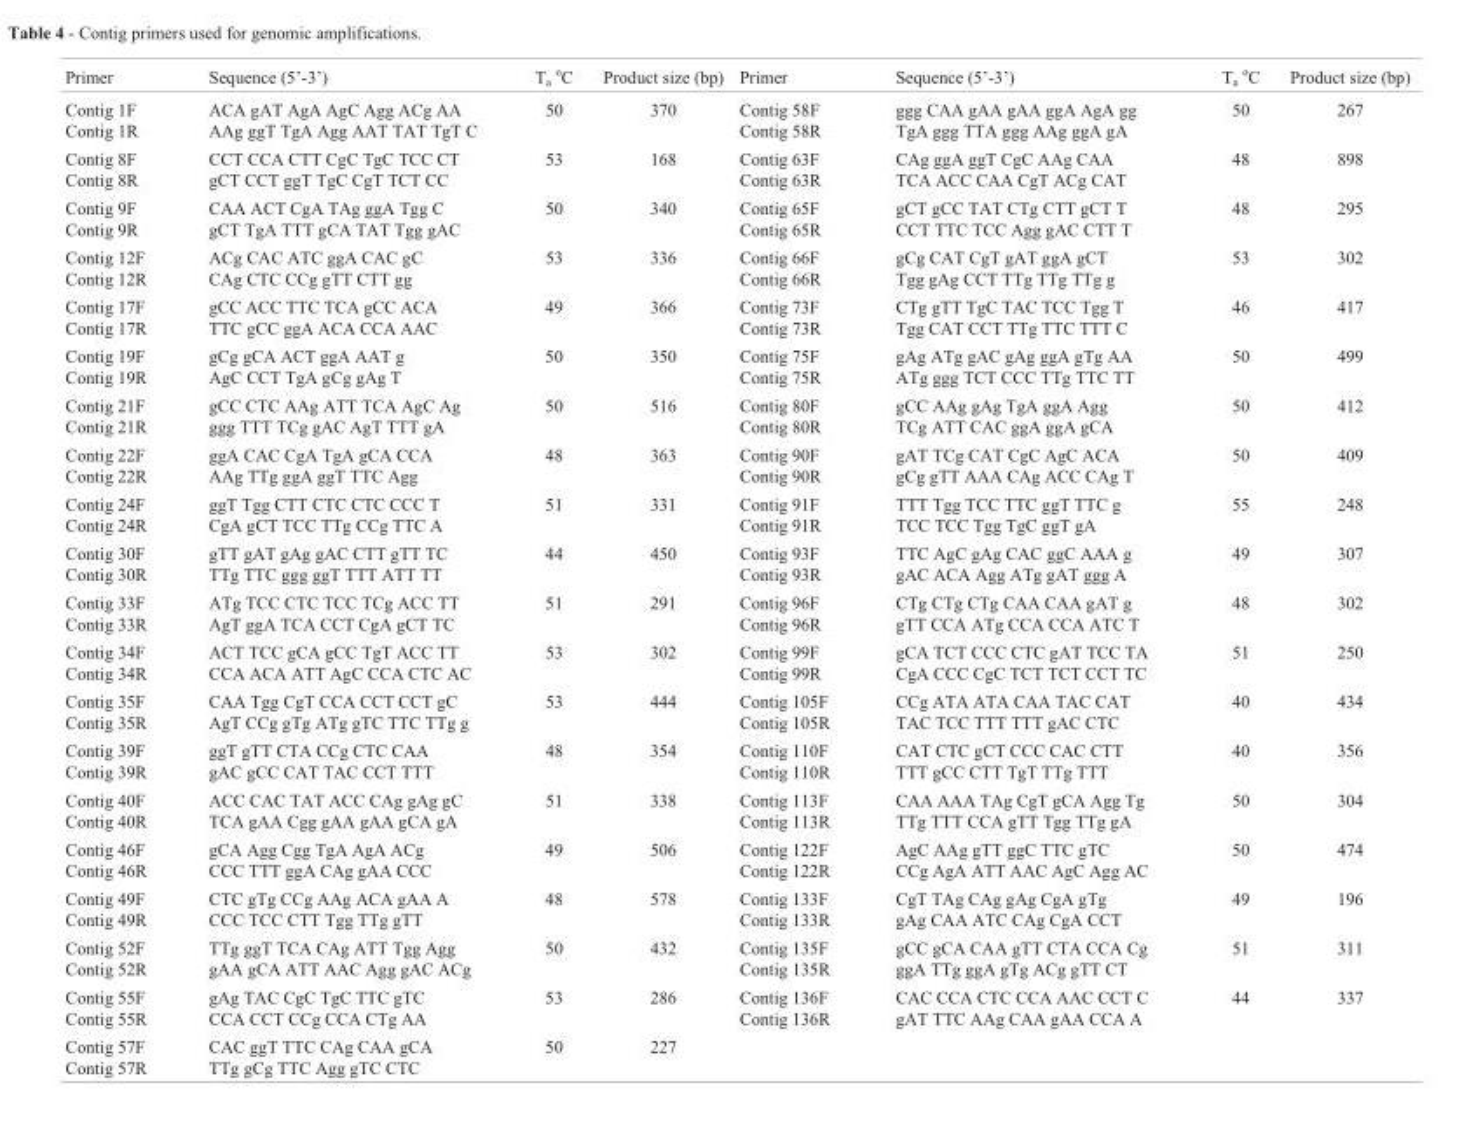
<table><thead><tr><td>Primer</td><td>Sequence (5’-3’)</td><td>T<sub>a</sub> <sup>o</sup>C</td><td>Product size (bp)</td><td>Primer</td><td>Sequence (5’-3’)</td><td>T<sub>a</sub> <sup>o</sup>C</td><td>Product size (bp)</td></tr></thead><tbody><tr><td>Contig 1F Contig 1R</td><td>ACA gAT AgA AgC Agg ACg AA AAg ggT TgA Agg AAT TAT TgT C</td><td>50</td><td>370</td><td>Contig 58F Contig 58R</td><td>ggg CAA gAA gAA ggA AgA gg TgA ggg TTA ggg AAg ggA gA</td><td>50</td><td>267</td></tr><tr><td>Contig 8F Contig 8R</td><td>CCT CCA CTT CgC TgC TCC CT gCT CCT ggT TgC CgT TCT CC</td><td>53</td><td>168</td><td>Contig 63F Contig 63R</td><td>CAg ggA ggT CgC AAg CAA TCA ACC CAA CgT ACg CAT</td><td>48</td><td>898</td></tr><tr><td>Contig 9F Contig 9R</td><td>CAA ACT CgA TAg ggA Tgg C gCT TgA TTT gCA TAT Tgg gAC</td><td>50</td><td>340</td><td>Contig 65F Contig 65R</td><td>gCT gCC TAT CTg CTT gCT T CCT TTC TCC Agg gAC CTT T</td><td>48</td><td>295</td></tr><tr><td>Contig 12F Contig 12R</td><td>ACg CAC ATC ggA CAC gC CAg CTC CCg gTT CTT gg</td><td>53</td><td>336</td><td>Contig 66F Contig 66R</td><td>gCg CAT CgT gAT ggA gCT Tgg gAg CCT TTg TTg TTg g</td><td>53</td><td>302</td></tr><tr><td>Contig 17F Contig 17R</td><td>gCC ACC TTC TCA gCC ACA TTC gCC ggA ACA CCA AAC</td><td>49</td><td>366</td><td>Contig 73F Contig 73R</td><td>CTg gTT TgC TAC TCC Tgg T Tgg CAT CCT TTg TTC TTT C</td><td>46</td><td>417</td></tr><tr><td>Contig 19F Contig 19R</td><td>gCg gCA ACT ggA AAT g AgC CCT TgA gCg gAg T</td><td>50</td><td>350</td><td>Contig 75F Contig 75R</td><td>gAg ATg gAC gAg ggA gTg AA ATg ggg TCT CCC TTg TTC TT</td><td>50</td><td>499</td></tr><tr><td>Contig 21F Contig 21R</td><td>gCC CTC AAg ATT TCA AgC Ag ggg TTT TCg gAC AgT TTT gA</td><td>50</td><td>516</td><td>Contig 80F Contig 80R</td><td>gCC AAg gAg TgA ggA Agg TCg ATT CAC ggA ggA gCA</td><td>50</td><td>412</td></tr><tr><td>Contig 22F Contig 22R</td><td>ggA CAC CgA TgA gCA CCA AAg TTg ggA ggT TTC Agg</td><td>48</td><td>363</td><td>Contig 90F Contig 90R</td><td>gAT TCg CAT CgC AgC ACA gCg gTT AAA CAg ACC CAg T</td><td>50</td><td>409</td></tr><tr><td>Contig 24F Contig 24R</td><td>ggT Tgg CTT CTC CTC CCC T CgA gCT TCC TTg CCg TTC A</td><td>51</td><td>331</td><td>Contig 91F Contig 91R</td><td>TTT Tgg TCC TTC ggT TTC g TCC TCC Tgg TgC ggT gA</td><td>55</td><td>248</td></tr><tr><td>Contig 30F Contig 30R</td><td>gTT gAT gAg gAC CTT gTT TC TTg TTC ggg ggT TTT ATT TT</td><td>44</td><td>450</td><td>Contig 93F Contig 93R</td><td>TTC AgC gAg CAC ggC AAA g gAC ACA Agg ATg gAT ggg A</td><td>49</td><td>307</td></tr><tr><td>Contig 33F Contig 33R</td><td>ATg TCC CTC TCC TCg ACC TT AgT ggA TCA CCT CgA gCT TC</td><td>51</td><td>291</td><td>Contig 96F Contig 96R</td><td>CTg CTg CTg CAA CAA gAT g gTT CCA ATg CCA CCA ATC T</td><td>48</td><td>302</td></tr><tr><td>Contig 34F Contig 34R</td><td>ACT TCC gCA gCC TgT ACC TT CCA ACA ATT AgC CCA CTC AC</td><td>53</td><td>302</td><td>Contig 99F Contig 99R</td><td>gCA TCT CCC CTC gAT TCC TA CgA CCC CgC TCT TCT CCT TC</td><td>51</td><td>250</td></tr><tr><td>Contig 35F Contig 35R</td><td>CAA Tgg CgT CCA CCT CCT gC AgT CCg gTg ATg gTC TTC TTg g</td><td>53</td><td>444</td><td>Contig 105F Contig 105R</td><td>CCg ATA ATA CAA TAC CAT TAC TCC TTT TTT gAC CTC</td><td>40</td><td>434</td></tr><tr><td>Contig 39F Contig 39R</td><td>ggT gTT CTA CCg CTC CAA gAC gCC CAT TAC CCT TTT</td><td>48</td><td>354</td><td>Contig 110F Contig 110R</td><td>CAT CTC gCT CCC CAC CTT TTT gCC CTT TgT TTg TTT</td><td>40</td><td>356</td></tr><tr><td>Contig 40F Contig 40R</td><td>ACC CAC TAT ACC CAg gAg gC TCA gAA Cgg gAA gAA gCA gA</td><td>51</td><td>338</td><td>Contig 113F Contig 113R</td><td>CAA AAA TAg CgT gCA Agg Tg TTg TTT CCA gTT Tgg TTg gA</td><td>50</td><td>304</td></tr><tr><td>Contig 46F Contig 46R</td><td>gCA Agg Cgg TgA AgA ACg CCC TTT ggA CAg gAA CCC</td><td>49</td><td>506</td><td>Contig 122F Contig 122R</td><td>AgC AAg gTT ggC TTC gTC CCg AgA ATT AAC AgC Agg AC</td><td>50</td><td>474</td></tr><tr><td>Contig 49F Contig 49R</td><td>CTC gTg CCg AAg ACA gAA A CCC TCC CTT Tgg TTg gTT</td><td>48</td><td>578</td><td>Contig 133F Contig 133R</td><td>CgT TAg CAg gAg CgA gTg gAg CAA ATC CAg CgA CCT</td><td>49</td><td>196</td></tr><tr><td>Contig 52F Contig 52R</td><td>TTg ggT TCA CAg ATT Tgg Agg gAA gCA ATT AAC Agg gAC ACg</td><td>50</td><td>432</td><td>Contig 135F Contig 135R</td><td>gCC gCA CAA gTT CTA CCA Cg ggA TTg ggA gTg ACg gTT CT</td><td>51</td><td>311</td></tr><tr><td>Contig 55F Contig 55R</td><td>gAg TAC CgC TgC TTC gTC CCA CCT CCg CCA CTg AA</td><td>53</td><td>286</td><td>Contig 136F Contig 136R</td><td>CAC CCA CTC CCA AAC CCT C gAT TTC AAg CAA gAA CCA A</td><td>44</td><td>337</td></tr><tr><td>Contig 57F Contig 57R</td><td>CAC ggT TTC CAg CAA gCA TTg gCg TTC Agg gTC CTC</td><td>50</td><td>227</td><td></td><td></td><td></td><td></td></tr></tbody></table>